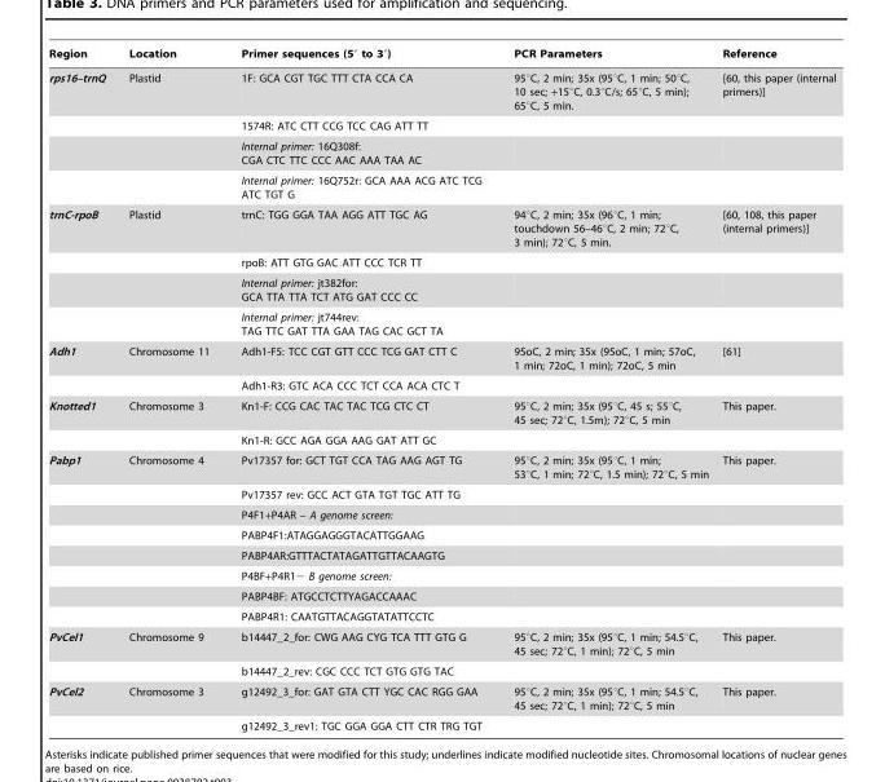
<table><thead><tr><td>Region</td><td>Location</td><td>Primer sequences (5′ to 3′)</td><td>PCR Parameters</td><td>Reference</td></tr></thead><tbody><tr><td rowspan="4">rps16–trnQ</td><td>Plastid</td><td>1F: GCA CGT TGC TTT CTA CCA CA</td><td>95°C, 2 min; 35x (95°C, 1 min; 50°C, 10 sec; +15°C, 0.3°C/s; 65°C, 5 min); 65°C, 5 min.</td><td>[60, this paper (internal primers)]</td></tr><tr><td></td><td>1574R: ATC CTT CCG TCC CAG ATT TT</td><td></td><td></td></tr><tr><td></td><td>Internal primer: 16Q308f: CGA CTC TTC CCC AAC AAA TAA AC</td><td></td><td></td></tr><tr><td></td><td>Internal primer: 16Q752r: GCA AAA ACG ATC TCG ATC TGT G</td><td></td><td></td></tr><tr><td rowspan="4">trnC-rpoB</td><td>Plastid</td><td>trnC: TGG GGA TAA AGG ATT TGC AG</td><td>94°C, 2 min; 35x (96°C, 1 min; touchdown 56–46°C, 2 min; 72°C, 3 min); 72°C, 5 min.</td><td>[60, 108, this paper (internal primers)]</td></tr><tr><td></td><td>rpoB: ATT GTG GAC ATT CCC TCR TT</td><td></td><td></td></tr><tr><td></td><td>Internal primer: jt382for: GCA TTA TTA TCT ATG GAT CCC CC</td><td></td><td></td></tr><tr><td></td><td>Internal primer: jt744rev: TAG TTC GAT TTA GAA TAG CAC GCT TA</td><td></td><td></td></tr><tr><td rowspan="2">Adh1</td><td>Chromosome 11</td><td>Adh1-F5: TCC CGT GTT CCC TCG GAT CTT C</td><td>95oC, 2 min; 35x (95oC, 1 min; 57oC, 1 min; 72oC, 1 min); 72oC, 5 min</td><td>[61]</td></tr><tr><td></td><td>Adh1-R3: GTC ACA CCC TCT CCA ACA CTC T</td><td></td><td></td></tr><tr><td rowspan="2">Knotted1</td><td>Chromosome 3</td><td>Kn1-F: CCG CAC TAC TAC TCG CTC CT</td><td>95°C, 2 min; 35x (95°C, 45 s; 55°C, 45 sec; 72°C, 1.5m); 72°C, 5 min</td><td>This paper.</td></tr><tr><td></td><td>Kn1-R: GCC AGA GGA AAG GAT ATT GC</td><td></td><td></td></tr><tr><td rowspan="8">Pabp1</td><td>Chromosome 4</td><td>Pv17357 for: GCT TGT CCA TAG AAG AGT TG</td><td>95°C, 2 min; 35x (95°C, 1 min; 53°C, 1 min; 72°C, 1.5 min); 72°C, 5 min</td><td>This paper.</td></tr><tr><td></td><td>Pv17357 rev: GCC ACT GTA TGT TGC ATT TG</td><td></td><td></td></tr><tr><td></td><td>P4F1+P4AR – A genome screen:</td><td></td><td></td></tr><tr><td></td><td>PABP4F1:ATAGGAGGGTACATTGGAAG</td><td></td><td></td></tr><tr><td></td><td>PABP4AR:GTTTACTATAGATTGTTACAAGTG</td><td></td><td></td></tr><tr><td></td><td>P4BF+P4R1− B genome screen:</td><td></td><td></td></tr><tr><td></td><td>PABP4BF: ATGCCTCTTYAGACCAAAC</td><td></td><td></td></tr><tr><td></td><td>PABP4R1: CAATGTTACAGGTATATTCCTC</td><td></td><td></td></tr><tr><td rowspan="2">PvCel1</td><td>Chromosome 9</td><td>b14447_2_for: CWG AAG CYG TCA TTT GTG G</td><td>95°C, 2 min; 35x (95°C, 1 min; 54.5°C, 45 sec; 72°C, 1 min); 72°C, 5 min</td><td>This paper.</td></tr><tr><td></td><td>b14447_2_rev: CGC CCC TCT GTG GTG TAC</td><td></td><td></td></tr><tr><td rowspan="2">PvCel2</td><td>Chromosome 3</td><td>g12492_3_for: GAT GTA CTT YGC CAC RGG GAA</td><td>95°C, 2 min; 35x (95°C, 1 min; 54.5°C, 45 sec; 72°C, 1 min); 72°C, 5 min</td><td>This paper.</td></tr><tr><td></td><td>g12492_3_rev1: TGC GGA GGA CTT CTR TRG TGT</td><td></td><td></td></tr></tbody></table>